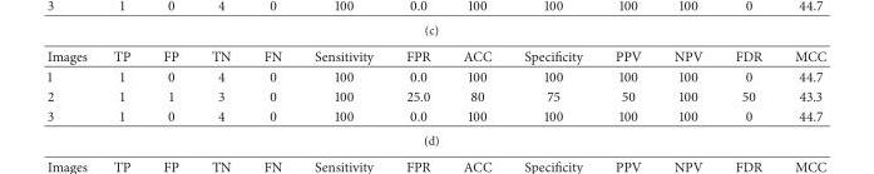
<table><thead><tr><td>Images</td><td>TP</td><td>FP</td><td>TN</td><td>FN</td><td>Sensitivity</td><td>FPR</td><td>ACC</td><td>Specificity</td><td>PPV</td><td>NPV</td><td>FDR</td><td>MCC</td></tr></thead><tbody><tr><td>1</td><td>1</td><td>0</td><td>4</td><td>0</td><td>100</td><td>0.0</td><td>100</td><td>100</td><td>100</td><td>100</td><td>0</td><td>44.7</td></tr><tr><td>2</td><td>1</td><td>1</td><td>3</td><td>0</td><td>100</td><td>25.0</td><td>80</td><td>75</td><td>50</td><td>100</td><td>50</td><td>43.3</td></tr><tr><td>3</td><td>1</td><td>0</td><td>4</td><td>0</td><td>100</td><td>0.0</td><td>100</td><td>100</td><td>100</td><td>100</td><td>0</td><td>44.7</td></tr></tbody></table>